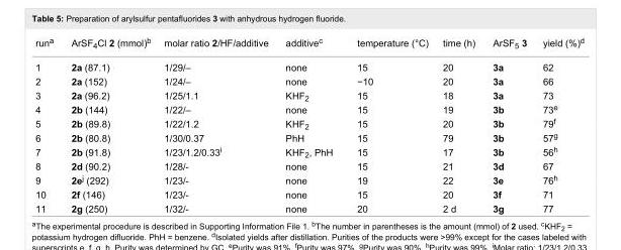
<table><tbody><tr><td>run<sup>a</sup></td><td>ArSF<sub>4</sub>Cl 2 (mmol)<sup>b</sup></td><td>molar ratio 2/HF/additive</td><td>additive<sup>c</sup></td><td>temperature (°C)</td><td>time (h)</td><td>ArSF<sub>5</sub> 3</td><td>yield (%)<sup>d</sup></td></tr><tr><td>1</td><td>2a (87.1)</td><td>1/29/–</td><td>none</td><td>15</td><td>20</td><td>3a</td><td>62</td></tr><tr><td>2</td><td>2a (152)</td><td>1/24/–</td><td>none</td><td>−10</td><td>20</td><td>3a</td><td>66</td></tr><tr><td>3</td><td>2a (96.2)</td><td>1/25/1.1</td><td>KHF<sub>2</sub></td><td>15</td><td>18</td><td>3a</td><td>73</td></tr><tr><td>4</td><td>2b (144)</td><td>1/22/–</td><td>none</td><td>15</td><td>19</td><td>3b</td><td>73<sup>e</sup></td></tr><tr><td>5</td><td>2b (89.8)</td><td>1/22/1.2</td><td>KHF<sub>2</sub></td><td>15</td><td>20</td><td>3b</td><td>79<sup>f</sup></td></tr><tr><td>6</td><td>2b (80.8)</td><td>1/30/0.37</td><td>PhH</td><td>15</td><td>79</td><td>3b</td><td>57<sup>g</sup></td></tr><tr><td>7</td><td>2b (91.8)</td><td>1/23/1.2/0.33<sup>i</sup></td><td>KHF<sub>2</sub>, PhH</td><td>15</td><td>17</td><td>3b</td><td>56<sup>h</sup></td></tr><tr><td>8</td><td>2d (90.2)</td><td>1/28/-</td><td>none</td><td>15</td><td>21</td><td>3d</td><td>67</td></tr><tr><td>9</td><td>2e<sup>j</sup> (292)</td><td>1/23/-</td><td>none</td><td>19</td><td>22</td><td>3e</td><td>76<sup>h</sup></td></tr><tr><td>10</td><td>2f (146)</td><td>1/23/-</td><td>none</td><td>15</td><td>20</td><td>3f</td><td>71</td></tr><tr><td>11</td><td>2g (250)</td><td>1/32/-</td><td>none</td><td>20</td><td>2 d</td><td>3g</td><td>77</td></tr></tbody></table>